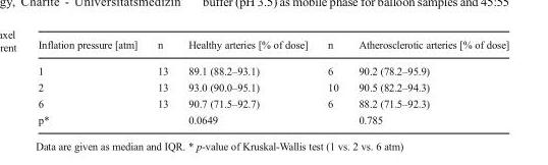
<table><thead><tr><td>Inflation pressure [atm]</td><td>n</td><td>Healthy arteries [% of dose]</td><td>n</td><td>Atherosclerotic arteries [% of dose]</td></tr></thead><tbody><tr><td>1</td><td>13</td><td>89.1 (88.2–93.1)</td><td>6</td><td>90.2 (78.2–95.9)</td></tr><tr><td>2</td><td>13</td><td>93.0 (90.0–95.1)</td><td>10</td><td>90.5 (82.2–94.3)</td></tr><tr><td>6</td><td>13</td><td>90.7 (71.5–92.7)</td><td>6</td><td>88.2 (71.5–92.3)</td></tr><tr><td>p*</td><td></td><td>0.0649</td><td></td><td>0.785</td></tr></tbody></table>